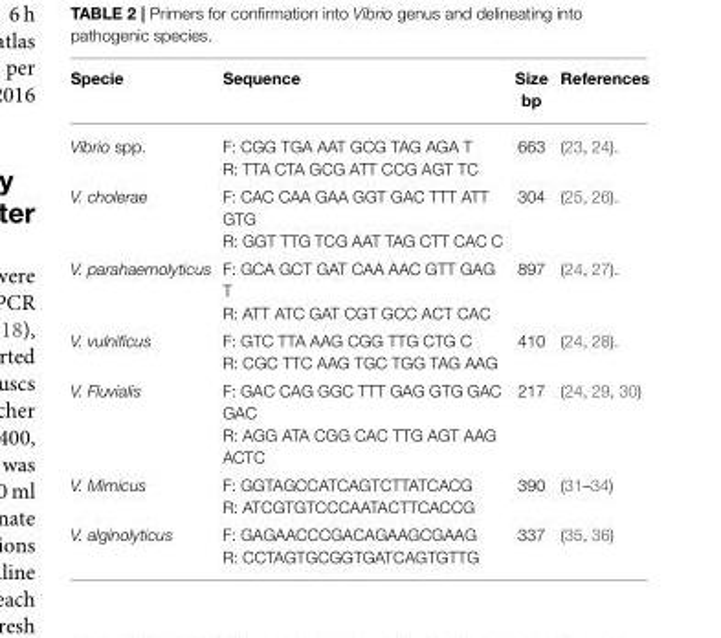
<table><thead><tr><td>Specie</td><td>Sequence</td><td>Size bp</td><td>References</td></tr></thead><tbody><tr><td>Vibrio spp.</td><td>F: CGG TGA AAT GCG TAG AGA T R: TTA CTA GCG ATT CCG AGT TC</td><td>663</td><td>(23, 24).</td></tr><tr><td>V. cholerae</td><td>F: CAC CAA GAA GGT GAC TTT ATT GTG R: GGT TTG TCG AAT TAG CTT CAC C</td><td>304</td><td>(25, 26).</td></tr><tr><td>V. parahaemolyticus</td><td>F: GCA GCT GAT CAA AAC GTT GAG T R: ATT ATC GAT CGT GCC ACT CAC</td><td>897</td><td>(24, 27).</td></tr><tr><td>V. vulnificus</td><td>F: GTC TTA AAG CGG TTG CTG C R: CGC TTC AAG TGC TGG TAG AAG</td><td>410</td><td>(24, 28).</td></tr><tr><td>V. Fluvialis</td><td>F: GAC CAG GGC TTT GAG GTG GAC GAC R: AGG ATA CGG CAC TTG AGT AAG ACTC</td><td>217</td><td>(24, 29, 30)</td></tr><tr><td>V. Mimicus</td><td>F: GGTAGCCATCAGTCTTATCACG R: ATCGTGTCCCAATACTTCACCG</td><td>390</td><td>(31–34)</td></tr><tr><td>V. alginolyticus</td><td>F: GAGAACCCGACAGAAGCGAAG R: CCTAGTGCGGTGATCAGTGTTG</td><td>337</td><td>(35, 36)</td></tr></tbody></table>